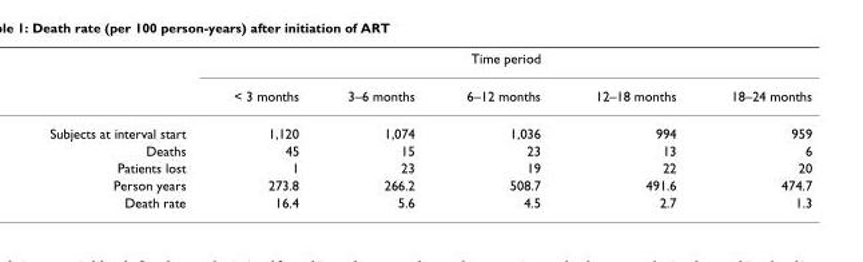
<table><thead><tr><td rowspan="2"></td><td colspan="5">Time period</td></tr><tr><td>&lt; 3 months</td><td>3–6 months</td><td>6–12 months</td><td>12–18 months</td><td>18–24 months</td></tr></thead><tbody><tr><td>Subjects at interval start</td><td>1,120</td><td>1,074</td><td>1,036</td><td>994</td><td>959</td></tr><tr><td>Deaths</td><td>45</td><td>15</td><td>23</td><td>13</td><td>6</td></tr><tr><td>Patients lost</td><td>1</td><td>23</td><td>19</td><td>22</td><td>20</td></tr><tr><td>Person years</td><td>273.8</td><td>266.2</td><td>508.7</td><td>491.6</td><td>474.7</td></tr><tr><td>Death rate</td><td>16.4</td><td>5.6</td><td>4.5</td><td>2.7</td><td>1.3</td></tr></tbody></table>